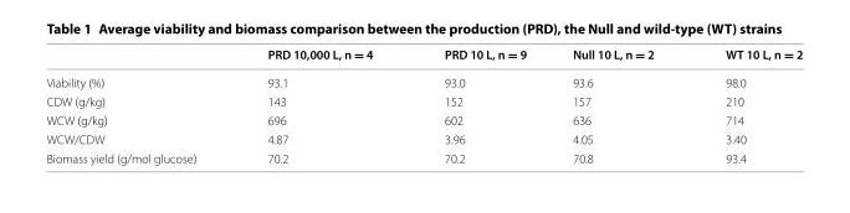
<table><thead><tr><td></td><td>PRD 10,000 L, n = 4</td><td>PRD 10 L, n = 9</td><td>Null 10 L, n = 2</td><td>WT 10 L, n = 2</td></tr></thead><tbody><tr><td>Viability (%)</td><td>93.1</td><td>93.0</td><td>93.6</td><td>98.0</td></tr><tr><td>CDW (g/kg)</td><td>143</td><td>152</td><td>157</td><td>210</td></tr><tr><td>WCW (g/kg)</td><td>696</td><td>602</td><td>636</td><td>714</td></tr><tr><td>WCW/CDW</td><td>4.87</td><td>3.96</td><td>4.05</td><td>3.40</td></tr><tr><td>Biomass yield (g/mol glucose)</td><td>70.2</td><td>70.2</td><td>70.8</td><td>93.4</td></tr></tbody></table>